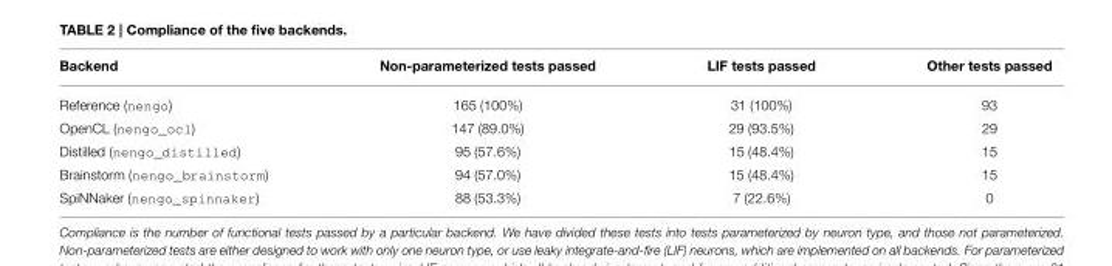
<table><thead><tr><td>Backend</td><td>Non-parameterized tests passed</td><td>LIF tests passed</td><td>Other tests passed</td></tr></thead><tbody><tr><td>Reference (nengo)</td><td>165 (100%)</td><td>31 (100%)</td><td>93</td></tr><tr><td>OpenCL (nengo_ocl)</td><td>147 (89.0%)</td><td>29 (93.5%)</td><td>29</td></tr><tr><td>Distilled (nengo_distilled)</td><td>95 (57.6%)</td><td>15 (48.4%)</td><td>15</td></tr><tr><td>Brainstorm (nengo_brainstorm)</td><td>94 (57.0%)</td><td>15 (48.4%)</td><td>15</td></tr><tr><td>SpiNNaker (nengo_spinnaker)</td><td>88 (53.3%)</td><td>7 (22.6%)</td><td>0</td></tr></tbody></table>